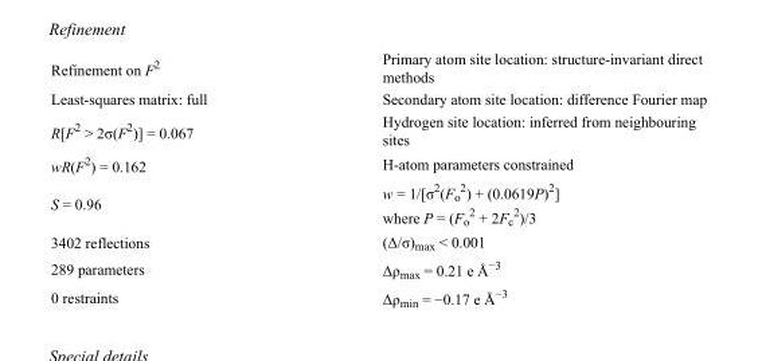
<table><tbody><tr><td>Refinement on F<sup>2</sup></td><td>Primary atom site location: structure-invariant direct methods</td></tr><tr><td>Least-squares matrix: full</td><td>Secondary atom site location: difference Fourier map</td></tr><tr><td>R[F<sup>2</sup> &gt; 2σ(F<sup>2</sup>)] = 0.067</td><td>Hydrogen site location: inferred from neighbouring sites</td></tr><tr><td>wR(F<sup>2</sup>) = 0.162</td><td>H-atom parameters constrained</td></tr><tr><td>S = 0.96</td><td>w = 1/[σ<sup>2</sup>(F<sub>o</sub> <sup>2</sup>) + (0.0619P)<sup>2</sup>] where P = (F<sub>o</sub> <sup>2</sup> + 2F<sub>c</sub> <sup>2</sup>)/3</td></tr><tr><td>3402 reflections</td><td>(Δ/σ)<sub>max</sub> &lt; 0.001</td></tr><tr><td>289 parameters</td><td>Δρ<sub>max</sub> = 0.21 e Å<sup>−3</sup></td></tr><tr><td>0 restraints</td><td>Δρ<sub>min</sub> = −0.17 e Å<sup>−3</sup></td></tr></tbody></table>